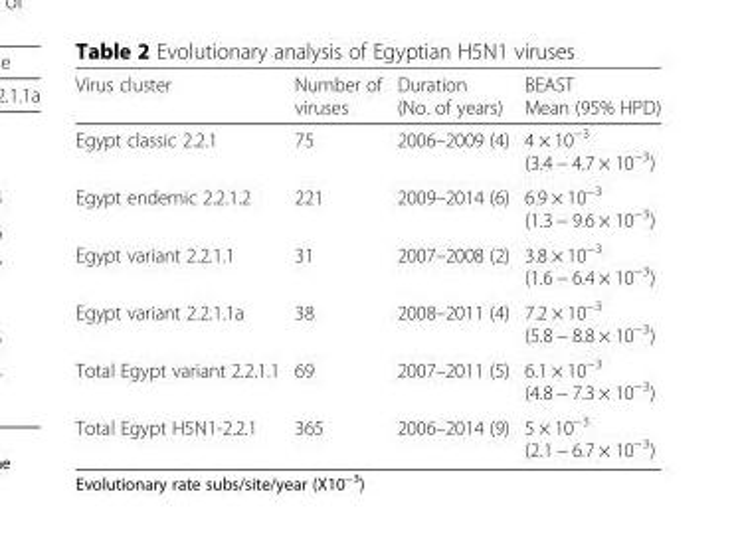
<table><thead><tr><td>Virus cluster</td><td>Number of viruses</td><td>Duration (No. of years)</td><td>BEAST Mean (95% HPD)</td></tr></thead><tbody><tr><td>Egypt classic 2.2.1</td><td>75</td><td>2006–2009 (4)</td><td>4 × 10<sup>−3</sup> (3.4 − 4.7 × 10<sup>−3</sup>)</td></tr><tr><td>Egypt endemic 2.2.1.2</td><td>221</td><td>2009–2014 (6)</td><td>6.9 × 10<sup>−3</sup> (1.3 − 9.6 × 10<sup>−3</sup>)</td></tr><tr><td>Egypt variant 2.2.1.1</td><td>31</td><td>2007–2008 (2)</td><td>3.8 × 10<sup>−3</sup> (1.6 − 6.4 × 10<sup>−3</sup>)</td></tr><tr><td>Egypt variant 2.2.1.1a</td><td>38</td><td>2008–2011 (4)</td><td>7.2 × 10<sup>−3</sup> (5.8 − 8.8 × 10<sup>−3</sup>)</td></tr><tr><td>Total Egypt variant 2.2.1.1</td><td>69</td><td>2007–2011 (5)</td><td>6.1 × 10<sup>−3</sup> (4.8 − 7.3 × 10<sup>−3</sup>)</td></tr><tr><td>Total Egypt H5N1-2.2.1</td><td>365</td><td>2006–2014 (9)</td><td>5 × 10<sup>−3</sup> (2.1 − 6.7 × 10<sup>−3</sup>)</td></tr></tbody></table>